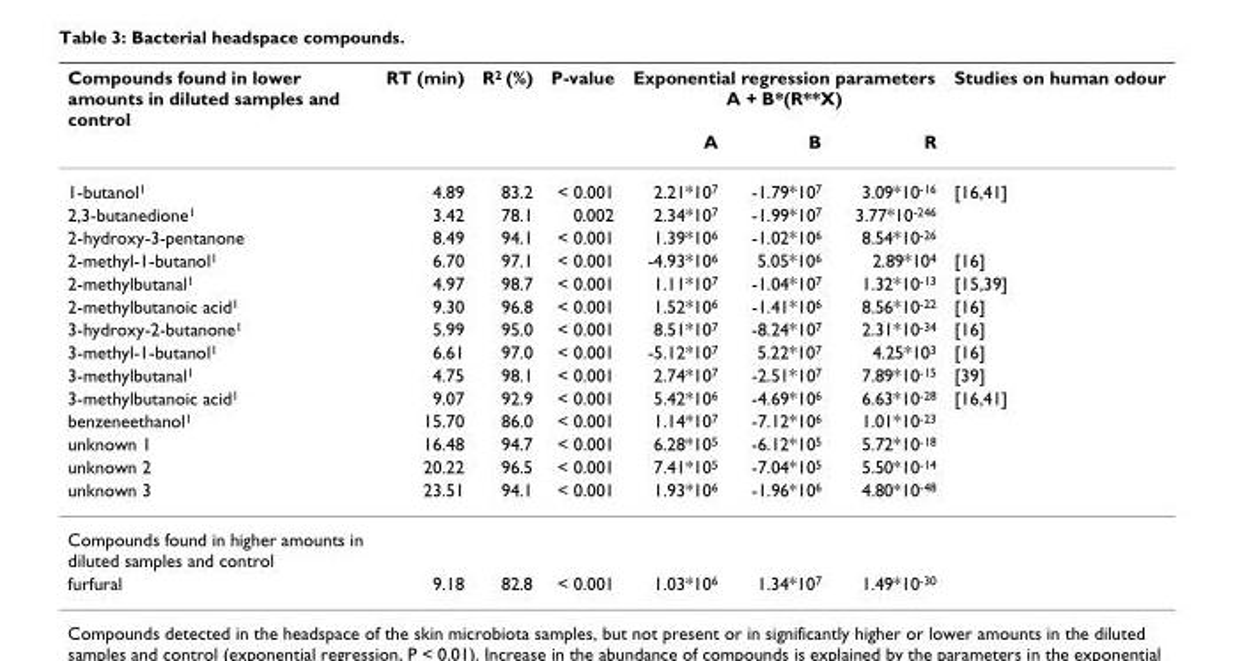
<table><thead><tr><td rowspan="2">Compounds found in lower amounts in diluted samples and control</td><td rowspan="2">RT (min)</td><td rowspan="2">R<sup>2</sup> (%)</td><td rowspan="2">P-value</td><td colspan="3">Exponential regression parameters A + B*(R**X)</td><td rowspan="2">Studies on human odour</td></tr><tr><td>A</td><td>B</td><td>R</td></tr></thead><tbody><tr><td>1-butanol<sup>1</sup></td><td>4.89</td><td>83.2</td><td>&lt; 0.001</td><td>2.21*10<sup>7</sup></td><td>-1.79*10<sup>7</sup></td><td>3.09*10<sup>-16</sup></td><td>[16,41]</td></tr><tr><td>2,3-butanedione<sup>1</sup></td><td>3.42</td><td>78.1</td><td>0.002</td><td>2.34*10<sup>7</sup></td><td>-1.99*10<sup>7</sup></td><td>3.77*10<sup>-246</sup></td><td></td></tr><tr><td>2-hydroxy-3-pentanone</td><td>8.49</td><td>94.1</td><td>&lt; 0.001</td><td>1.39*10<sup>6</sup></td><td>-1.02*10<sup>6</sup></td><td>8.54*10<sup>-26</sup></td><td></td></tr><tr><td>2-methyl-1-butanol<sup>1</sup></td><td>6.70</td><td>97.1</td><td>&lt; 0.001</td><td>-4.93*10<sup>6</sup></td><td>5.05*10<sup>6</sup></td><td>2.89*10<sup>4</sup></td><td>[16]</td></tr><tr><td>2-methylbutanal<sup>1</sup></td><td>4.97</td><td>98.7</td><td>&lt; 0.001</td><td>1.11*10<sup>7</sup></td><td>-1.04*10<sup>7</sup></td><td>1.32*10<sup>-13</sup></td><td>[15,39]</td></tr><tr><td>2-methylbutanoic acid<sup>1</sup></td><td>9.30</td><td>96.8</td><td>&lt; 0.001</td><td>1.52*10<sup>6</sup></td><td>-1.41*10<sup>6</sup></td><td>8.56*10<sup>-22</sup></td><td>[16]</td></tr><tr><td>3-hydroxy-2-butanone<sup>1</sup></td><td>5.99</td><td>95.0</td><td>&lt; 0.001</td><td>8.51*10<sup>7</sup></td><td>-8.24*10<sup>7</sup></td><td>2.31*10<sup>-34</sup></td><td>[16]</td></tr><tr><td>3-methyl-1-butanol<sup>1</sup></td><td>6.61</td><td>97.0</td><td>&lt; 0.001</td><td>-5.12*10<sup>7</sup></td><td>5.22*10<sup>7</sup></td><td>4.25*10<sup>3</sup></td><td>[16]</td></tr><tr><td>3-methylbutanal<sup>1</sup></td><td>4.75</td><td>98.1</td><td>&lt; 0.001</td><td>2.74*10<sup>7</sup></td><td>-2.51*10<sup>7</sup></td><td>7.89*10<sup>-15</sup></td><td>[39]</td></tr><tr><td>3-methylbutanoic acid<sup>1</sup></td><td>9.07</td><td>92.9</td><td>&lt; 0.001</td><td>5.42*10<sup>6</sup></td><td>-4.69*10<sup>6</sup></td><td>6.63*10<sup>-28</sup></td><td>[16,41]</td></tr><tr><td>benzeneethanol<sup>1</sup></td><td>15.70</td><td>86.0</td><td>&lt; 0.001</td><td>1.14*10<sup>7</sup></td><td>-7.12*10<sup>6</sup></td><td>1.01*10<sup>-23</sup></td><td></td></tr><tr><td>unknown 1</td><td>16.48</td><td>94.7</td><td>&lt; 0.001</td><td>6.28*10<sup>5</sup></td><td>-6.12*10<sup>5</sup></td><td>5.72*10<sup>-18</sup></td><td></td></tr><tr><td>unknown 2</td><td>20.22</td><td>96.5</td><td>&lt; 0.001</td><td>7.41*10<sup>5</sup></td><td>-7.04*10<sup>5</sup></td><td>5.50*10<sup>-14</sup></td><td></td></tr><tr><td>unknown 3</td><td>23.51</td><td>94.1</td><td>&lt; 0.001</td><td>1.93*10<sup>6</sup></td><td>-1.96*10<sup>6</sup></td><td>4.80*10<sup>-48</sup></td><td></td></tr><tr><td colspan="8">Compounds found in higher amounts in diluted samples and control</td></tr><tr><td>furfural</td><td>9.18</td><td>82.8</td><td>&lt; 0.001</td><td>1.03*10<sup>6</sup></td><td>1.34*10<sup>7</sup></td><td>1.49*10<sup>-30</sup></td><td></td></tr></tbody></table>